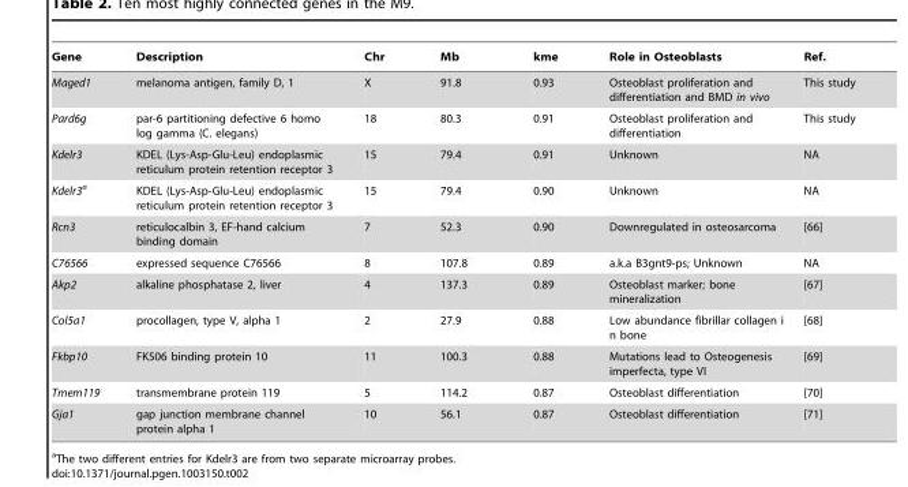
<table><thead><tr><td>Gene</td><td>Description</td><td>Chr</td><td>Mb</td><td>kme</td><td>Role in Osteoblasts</td><td>Ref.</td></tr></thead><tbody><tr><td>Maged1</td><td>melanoma antigen, family D, 1</td><td>X</td><td>91.8</td><td>0.93</td><td>Osteoblast proliferation and differentiation and BMD in vivo</td><td>This study</td></tr><tr><td>Pard6g</td><td>par-6 partitioning defective 6 homo log gamma (C. elegans)</td><td>18</td><td>80.3</td><td>0.91</td><td>Osteoblast proliferation and differentiation</td><td>This study</td></tr><tr><td>Kdelr3</td><td>KDEL (Lys-Asp-Glu-Leu) endoplasmic reticulum protein retention receptor 3</td><td>15</td><td>79.4</td><td>0.91</td><td>Unknown</td><td>NA</td></tr><tr><td>Kdelr3a</td><td>KDEL (Lys-Asp-Glu-Leu) endoplasmic reticulum protein retention receptor 3</td><td>15</td><td>79.4</td><td>0.90</td><td>Unknown</td><td>NA</td></tr><tr><td>Rcn3</td><td>reticulocalbin 3, EF-hand calcium binding domain</td><td>7</td><td>52.3</td><td>0.90</td><td>Downregulated in osteosarcoma</td><td>[66]</td></tr><tr><td>C76566</td><td>expressed sequence C76566</td><td>8</td><td>107.8</td><td>0.89</td><td>a.k.a B3gnt9-ps; Unknown</td><td>NA</td></tr><tr><td>Akp2</td><td>alkaline phosphatase 2, liver</td><td>4</td><td>137.3</td><td>0.89</td><td>Osteoblast marker; bone mineralization</td><td>[67]</td></tr><tr><td>Col5a1</td><td>procollagen, type V, alpha 1</td><td>2</td><td>27.9</td><td>0.88</td><td>Low abundance fibrillar collagen i n bone</td><td>[68]</td></tr><tr><td>Fkbp10</td><td>FK506 binding protein 10</td><td>11</td><td>100.3</td><td>0.88</td><td>Mutations lead to Osteogenesis imperfecta, type VI</td><td>[69]</td></tr><tr><td>Tmem119</td><td>transmembrane protein 119</td><td>5</td><td>114.2</td><td>0.87</td><td>Osteoblast differentiation</td><td>[70]</td></tr><tr><td>Gja1</td><td>gap junction membrane channel protein alpha 1</td><td>10</td><td>56.1</td><td>0.87</td><td>Osteoblast differentiation</td><td>[71]</td></tr></tbody></table>